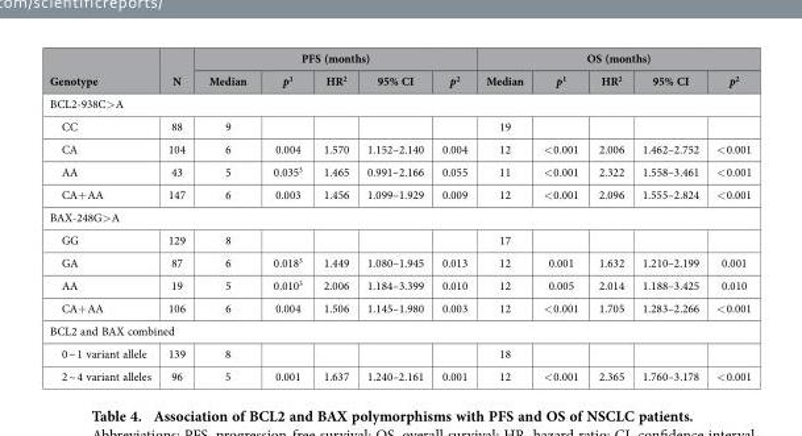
<table><thead><tr><td rowspan="2">Genotype</td><td rowspan="2">N</td><td colspan="5">PFS (months)</td><td colspan="5">OS (months)</td></tr><tr><td>Median</td><td>p<sup>1</sup></td><td>HR<sup>2</sup></td><td>95% CI</td><td>p<sup>2</sup></td><td>Median</td><td>p<sup>1</sup></td><td>HR<sup>2</sup></td><td>95% CI</td><td>p<sup>2</sup></td></tr></thead><tbody><tr><td colspan="12">BCL2-938C&gt; A</td></tr><tr><td>CC</td><td>88</td><td>9</td><td></td><td></td><td></td><td></td><td>19</td><td></td><td></td><td></td><td></td></tr><tr><td>CA</td><td>104</td><td>6</td><td>0.004</td><td>1.570</td><td>1.152–2.140</td><td>0.004</td><td>12</td><td>&lt; 0.001</td><td>2.006</td><td>1.462–2.752</td><td>&lt; 0.001</td></tr><tr><td>AA</td><td>43</td><td>5</td><td>0.035<sup>3</sup></td><td>1.465</td><td>0.991–2.166</td><td>0.055</td><td>11</td><td>&lt; 0.001</td><td>2.322</td><td>1.558–3.461</td><td>&lt; 0.001</td></tr><tr><td>CA+ AA</td><td>147</td><td>6</td><td>0.003</td><td>1.456</td><td>1.099–1.929</td><td>0.009</td><td>12</td><td>&lt; 0.001</td><td>2.096</td><td>1.555–2.824</td><td>&lt; 0.001</td></tr><tr><td colspan="12">BAX-248G&gt; A</td></tr><tr><td>GG</td><td>129</td><td>8</td><td></td><td></td><td></td><td></td><td>17</td><td></td><td></td><td></td><td></td></tr><tr><td>GA</td><td>87</td><td>6</td><td>0.018<sup>3</sup></td><td>1.449</td><td>1.080–1.945</td><td>0.013</td><td>12</td><td>0.001</td><td>1.632</td><td>1.210–2.199</td><td>0.001</td></tr><tr><td>AA</td><td>19</td><td>5</td><td>0.010<sup>3</sup></td><td>2.006</td><td>1.184–3.399</td><td>0.010</td><td>12</td><td>0.005</td><td>2.014</td><td>1.188–3.425</td><td>0.010</td></tr><tr><td>CA+ AA</td><td>106</td><td>6</td><td>0.004</td><td>1.506</td><td>1.145–1.980</td><td>0.003</td><td>12</td><td>&lt; 0.001</td><td>1.705</td><td>1.283–2.266</td><td>&lt; 0.001</td></tr><tr><td colspan="12">BCL2 and BAX combined</td></tr><tr><td>0 ~ 1 variant allele</td><td>139</td><td>8</td><td></td><td></td><td></td><td></td><td>18</td><td></td><td></td><td></td><td></td></tr><tr><td>2 ~ 4 variant alleles</td><td>96</td><td>5</td><td>0.001</td><td>1.637</td><td>1.240–2.161</td><td>0.001</td><td>12</td><td>&lt; 0.001</td><td>2.365</td><td>1.760–3.178</td><td>&lt; 0.001</td></tr></tbody></table>